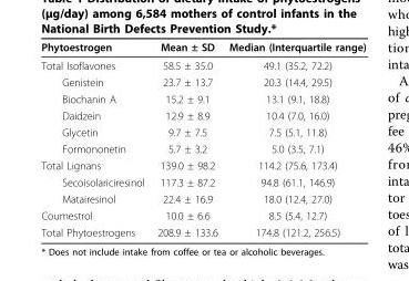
<table><thead><tr><td>Phytoestrogen</td><td>Mean ± SD</td><td>Median (Interquartile range)</td></tr></thead><tbody><tr><td>Total Isoflavones</td><td>58.5 ± 35.0</td><td>49.1 (35.2, 72.2)</td></tr><tr><td>Genistein</td><td>23.7 ± 13.7</td><td>20.3 (14.4, 29.5)</td></tr><tr><td>Biochanin A</td><td>15.2 ± 9.1</td><td>13.1 (9.1, 18.8)</td></tr><tr><td>Daidzein</td><td>12.9 ± 8.9</td><td>10.4 (7.0, 16.0)</td></tr><tr><td>Glycetin</td><td>9.7 ± 7.5</td><td>7.5 (5.1, 11.8)</td></tr><tr><td>Formononetin</td><td>5.7 ± 3.2</td><td>5.0 (3.5, 7.1)</td></tr><tr><td>Total Lignans</td><td>139.0 ± 98.2</td><td>114.2 (75.6, 173.4)</td></tr><tr><td>Secoisolariciresinol</td><td>117.3 ± 87.2</td><td>94.8 (61.1, 146.9)</td></tr><tr><td>Matairesinol</td><td>22.4 ± 16.9</td><td>18.0 (12.4, 27.0)</td></tr><tr><td>Coumestrol</td><td>10.0 ± 6.6</td><td>8.5 (5.4, 12.7)</td></tr><tr><td>Total Phytoestrogens</td><td>208.9 ± 133.6</td><td>174.8 (121.2, 256.5)</td></tr></tbody></table>